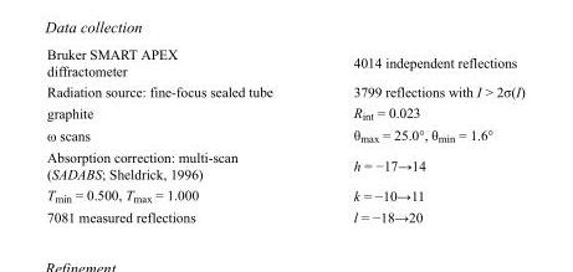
<table><tbody><tr><td>Bruker SMART APEX diffractometer</td><td>4014 independent reflections</td></tr><tr><td>Radiation source: fine-focus sealed tube</td><td>3799 reflections with I &gt; 2σ(I)</td></tr><tr><td>graphite</td><td>R<sub>int</sub> = 0.023</td></tr><tr><td>ω scans</td><td>θ<sub>max</sub> = 25.0°, θ<sub>min</sub> = 1.6°</td></tr><tr><td>Absorption correction: multi-scan (SADABS; Sheldrick, 1996)</td><td>h = −17→14</td></tr><tr><td>T<sub>min</sub> = 0.500, T<sub>max</sub> = 1.000</td><td>k = −10→11</td></tr><tr><td>7081 measured reflections</td><td>l = −18→20</td></tr></tbody></table>